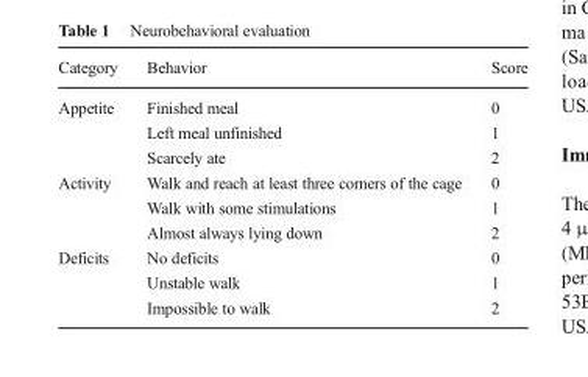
<table><thead><tr><td>Category</td><td>Behavior</td><td>Score</td></tr></thead><tbody><tr><td rowspan="3">Appetite</td><td>Finished meal</td><td>0</td></tr><tr><td>Left meal unfinished</td><td>1</td></tr><tr><td>Scarcely ate</td><td>2</td></tr><tr><td rowspan="3">Activity</td><td>Walk and reach at least three corners of the cage</td><td>0</td></tr><tr><td>Walk with some stimulations</td><td>1</td></tr><tr><td>Almost always lying down</td><td>2</td></tr><tr><td rowspan="3">Deficits</td><td>No deficits</td><td>0</td></tr><tr><td>Unstable walk</td><td>1</td></tr><tr><td>Impossible to walk</td><td>2</td></tr></tbody></table>